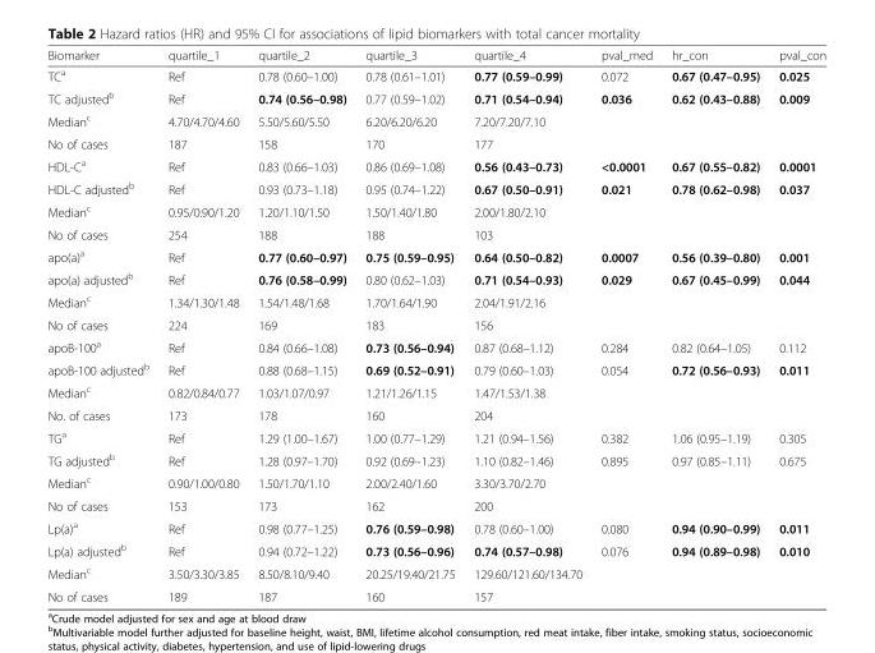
<table><thead><tr><td>Biomarker</td><td>quartile_1</td><td>quartile_2</td><td>quartile_3</td><td>quartile_4</td><td>pval_med</td><td>hr_con</td><td>pval_con</td></tr></thead><tbody><tr><td>TC<sup>a</sup></td><td>Ref</td><td>0.78 (0.60–1.00)</td><td>0.78 (0.61–1.01)</td><td>0.77 (0.59–0.99)</td><td>0.072</td><td>0.67 (0.47–0.95)</td><td>0.025</td></tr><tr><td>TC adjusted<sup>b</sup></td><td>Ref</td><td>0.74 (0.56–0.98)</td><td>0.77 (0.59–1.02)</td><td>0.71 (0.54–0.94)</td><td>0.036</td><td>0.62 (0.43–0.88)</td><td>0.009</td></tr><tr><td>Median<sup>c</sup></td><td>4.70/4.70/4.60</td><td>5.50/5.60/5.50</td><td>6.20/6.20/6.20</td><td>7.20/7.20/7.10</td><td></td><td></td><td></td></tr><tr><td>No of cases</td><td>187</td><td>158</td><td>170</td><td>177</td><td></td><td></td><td></td></tr><tr><td>HDL-C<sup>a</sup></td><td>Ref</td><td>0.83 (0.66–1.03)</td><td>0.86 (0.69–1.08)</td><td>0.56 (0.43–0.73)</td><td>&lt;0.0001</td><td>0.67 (0.55–0.82)</td><td>0.0001</td></tr><tr><td>HDL-C adjusted<sup>b</sup></td><td>Ref</td><td>0.93 (0.73–1.18)</td><td>0.95 (0.74–1.22)</td><td>0.67 (0.50–0.91)</td><td>0.021</td><td>0.78 (0.62–0.98)</td><td>0.037</td></tr><tr><td>Median<sup>c</sup></td><td>0.95/0.90/1.20</td><td>1.20/1.10/1.50</td><td>1.50/1.40/1.80</td><td>2.00/1.80/2.10</td><td></td><td></td><td></td></tr><tr><td>No of cases</td><td>254</td><td>188</td><td>188</td><td>103</td><td></td><td></td><td></td></tr><tr><td>apo(a)<sup>a</sup></td><td>Ref</td><td>0.77 (0.60–0.97)</td><td>0.75 (0.59–0.95)</td><td>0.64 (0.50–0.82)</td><td>0.0007</td><td>0.56 (0.39–0.80)</td><td>0.001</td></tr><tr><td>apo(a) adjusted<sup>b</sup></td><td>Ref</td><td>0.76 (0.58–0.99)</td><td>0.80 (0.62–1.03)</td><td>0.71 (0.54–0.93)</td><td>0.029</td><td>0.67 (0.45–0.99)</td><td>0.044</td></tr><tr><td>Median<sup>c</sup></td><td>1.34/1.30/1.48</td><td>1.54/1.48/1.68</td><td>1.70/1.64/1.90</td><td>2.04/1.91/2.16</td><td></td><td></td><td></td></tr><tr><td>No of cases</td><td>224</td><td>169</td><td>183</td><td>156</td><td></td><td></td><td></td></tr><tr><td>apoB-100<sup>a</sup></td><td>Ref</td><td>0.84 (0.66–1.08)</td><td>0.73 (0.56–0.94)</td><td>0.87 (0.68–1.12)</td><td>0.284</td><td>0.82 (0.64–1.05)</td><td>0.112</td></tr><tr><td>apoB-100 adjusted<sup>b</sup></td><td>Ref</td><td>0.88 (0.68–1.15)</td><td>0.69 (0.52–0.91)</td><td>0.79 (0.60–1.03)</td><td>0.054</td><td>0.72 (0.56–0.93)</td><td>0.011</td></tr><tr><td>Median<sup>c</sup></td><td>0.82/0.84/0.77</td><td>1.03/1.07/0.97</td><td>1.21/1.26/1.15</td><td>1.47/1.53/1.38</td><td></td><td></td><td></td></tr><tr><td>No. of cases</td><td>173</td><td>178</td><td>160</td><td>204</td><td></td><td></td><td></td></tr><tr><td>TG<sup>a</sup></td><td>Ref</td><td>1.29 (1.00–1.67)</td><td>1.00 (0.77–1.29)</td><td>1.21 (0.94–1.56)</td><td>0.382</td><td>1.06 (0.95–1.19)</td><td>0.305</td></tr><tr><td>TG adjusted<sup>b</sup></td><td>Ref</td><td>1.28 (0.97–1.70)</td><td>0.92 (0.69–1.23)</td><td>1.10 (0.82–1.46)</td><td>0.895</td><td>0.97 (0.85–1.11)</td><td>0.675</td></tr><tr><td>Median<sup>c</sup></td><td>0.90/1.00/0.80</td><td>1.50/1.70/1.10</td><td>2.00/2.40/1.60</td><td>3.30/3.70/2.70</td><td></td><td></td><td></td></tr><tr><td>No of cases</td><td>153</td><td>173</td><td>162</td><td>200</td><td></td><td></td><td></td></tr><tr><td>Lp(a)<sup>a</sup></td><td>Ref</td><td>0.98 (0.77–1.25)</td><td>0.76 (0.59–0.98)</td><td>0.78 (0.60–1.00)</td><td>0.080</td><td>0.94 (0.90–0.99)</td><td>0.011</td></tr><tr><td>Lp(a) adjusted<sup>b</sup></td><td>Ref</td><td>0.94 (0.72–1.22)</td><td>0.73 (0.56–0.96)</td><td>0.74 (0.57–0.98)</td><td>0.076</td><td>0.94 (0.89–0.98)</td><td>0.010</td></tr><tr><td>Median<sup>c</sup></td><td>3.50/3.30/3.85</td><td>8.50/8.10/9.40</td><td>20.25/19.40/21.75</td><td>129.60/121.60/134.70</td><td></td><td></td><td></td></tr><tr><td>No of cases</td><td>189</td><td>187</td><td>160</td><td>157</td><td></td><td></td><td></td></tr></tbody></table>